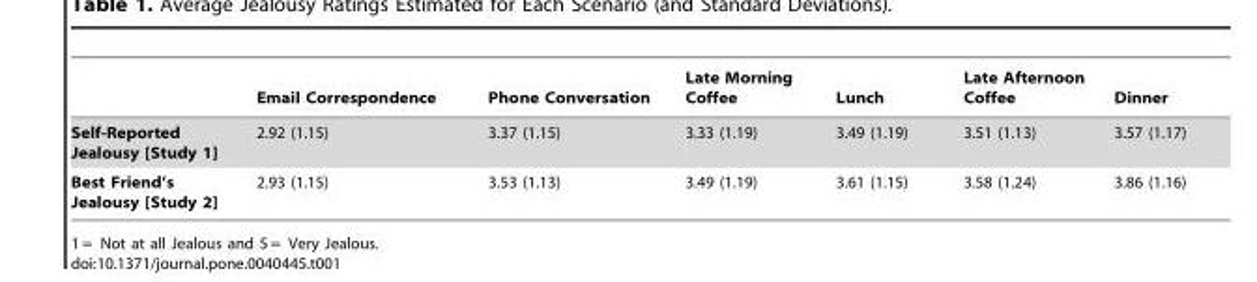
<table><thead><tr><td></td><td>Email Correspondence</td><td>Phone Conversation</td><td>Late Morning Coffee</td><td>Lunch</td><td>Late Afternoon Coffee</td><td>Dinner</td></tr></thead><tbody><tr><td>Self-Reported Jealousy [Study 1]</td><td>2.92 (1.15)</td><td>3.37 (1.15)</td><td>3.33 (1.19)</td><td>3.49 (1.19)</td><td>3.51 (1.13)</td><td>3.57 (1.17)</td></tr><tr><td>Best Friend’s Jealousy [Study 2]</td><td>2.93 (1.15)</td><td>3.53 (1.13)</td><td>3.49 (1.19)</td><td>3.61 (1.15)</td><td>3.58 (1.24)</td><td>3.86 (1.16)</td></tr></tbody></table>